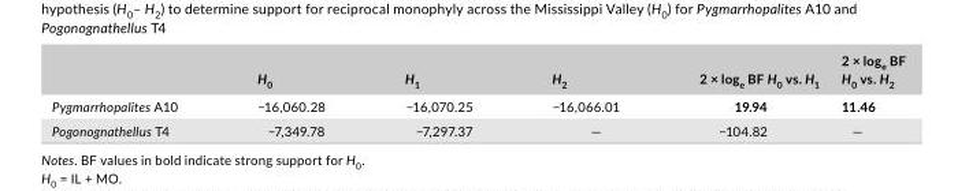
<table><thead><tr><td></td><td>H<sub>0</sub></td><td>H<sub>1</sub></td><td>H<sub>2</sub></td><td>2 × log<sub>e</sub> BF H<sub>0</sub> vs. H<sub>1</sub></td><td>2 × log<sub>e</sub> BF H<sub>0</sub> vs. H<sub>2</sub></td></tr></thead><tbody><tr><td>Pygmarrhopalites A10</td><td>−16,060.28</td><td>−16,070.25</td><td>−16,066.01</td><td>19.94</td><td>11.46</td></tr><tr><td>Pogonognathellus T4</td><td>−7,349.78</td><td>−7,297.37</td><td>—</td><td>−104.82</td><td>—</td></tr></tbody></table>